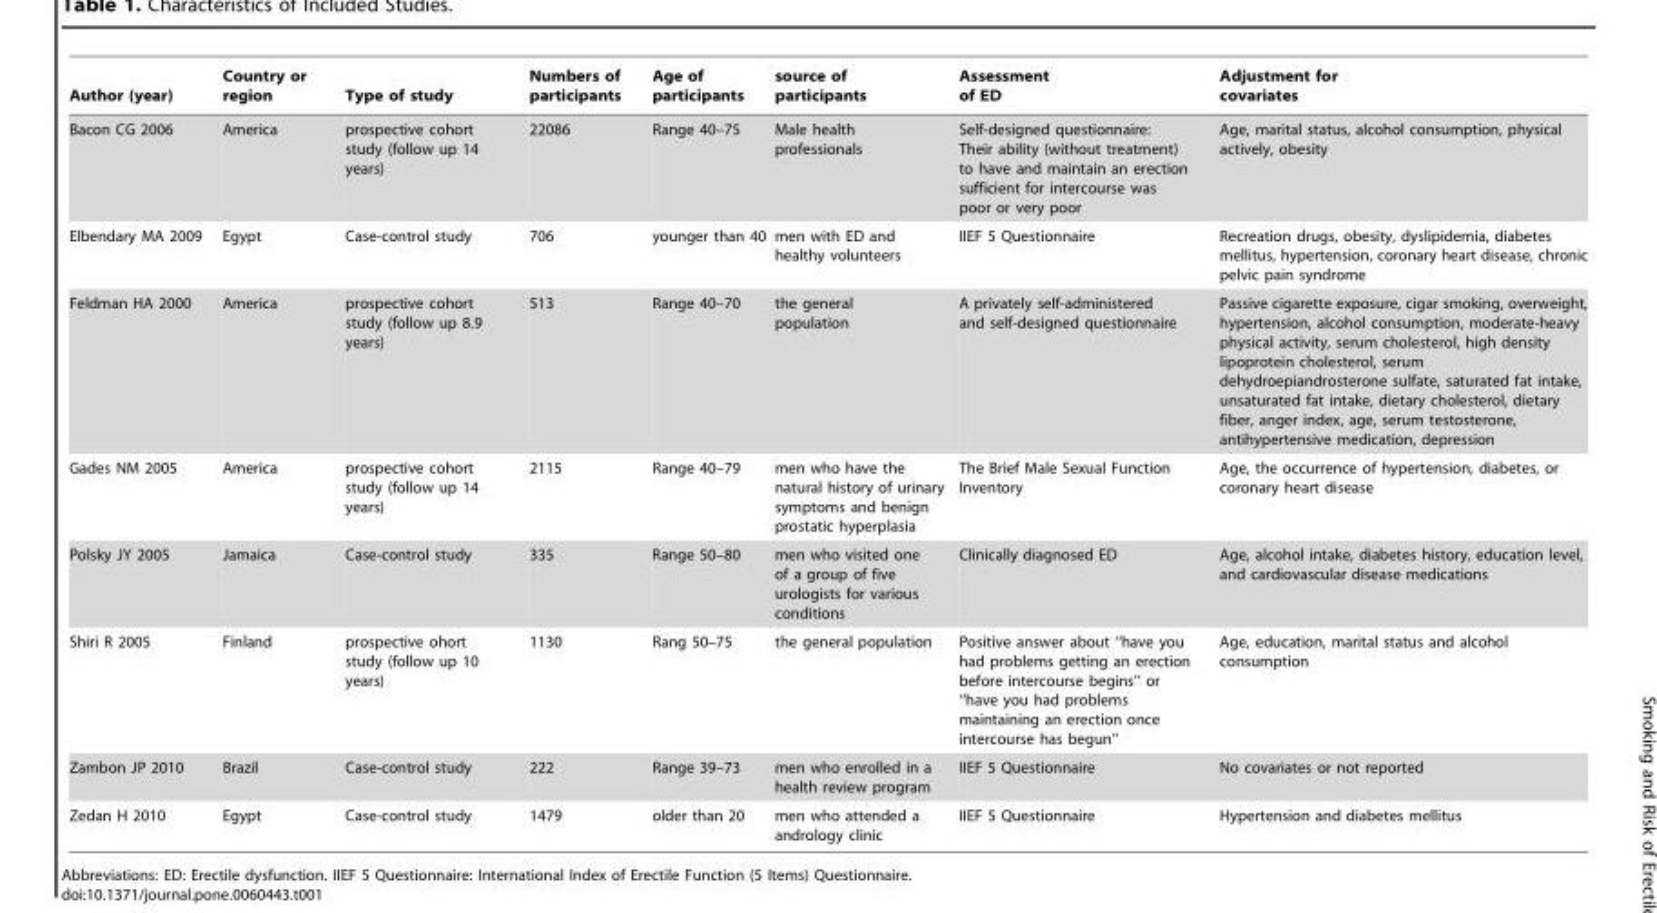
<table><thead><tr><td>Author (year)</td><td>Country or region</td><td>Type of study</td><td>Numbers of participants</td><td>Age of participants</td><td>source of participants</td><td>Assessment of ED</td><td>Adjustment for covariates</td></tr></thead><tbody><tr><td>Bacon CG 2006</td><td>America</td><td>prospective cohort study (follow up 14 years)</td><td>22086</td><td>Range 40–75</td><td>Male health professionals</td><td>Self-designed questionnaire: Their ability (without treatment) to have and maintain an erection sufficient for intercourse was poor or very poor</td><td>Age, marital status, alcohol consumption, physical actively, obesity</td></tr><tr><td>Elbendary MA 2009</td><td>Egypt</td><td>Case-control study</td><td>706</td><td>younger than 40</td><td>men with ED and healthy volunteers</td><td>IIEF 5 Questionnaire</td><td>Recreation drugs, obesity, dyslipidemia, diabetes mellitus, hypertension, coronary heart disease, chronic pelvic pain syndrome</td></tr><tr><td>Feldman HA 2000</td><td>America</td><td>prospective cohort study (follow up 8.9 years)</td><td>513</td><td>Range 40–70</td><td>the general population</td><td>A privately self-administered and self-designed questionnaire</td><td>Passive cigarette exposure, cigar smoking, overweight, hypertension, alcohol consumption, moderate-heavy physical activity, serum cholesterol, high density lipoprotein cholesterol, serum dehydroepiandrosterone sulfate, saturated fat intake, unsaturated fat intake, dietary cholesterol, dietary fiber, anger index, age, serum testosterone, antihypertensive medication, depression</td></tr><tr><td>Gades NM 2005</td><td>America</td><td>prospective cohort study (follow up 14 years)</td><td>2115</td><td>Range 40–79</td><td>men who have the natural history of urinary symptoms and benign prostatic hyperplasia</td><td>The Brief Male Sexual Function Inventory</td><td>Age, the occurrence of hypertension, diabetes, or coronary heart disease</td></tr><tr><td>Polsky JY 2005</td><td>Jamaica</td><td>Case-control study</td><td>335</td><td>Range 50–80</td><td>men who visited one of a group of five urologists for various conditions</td><td>Clinically diagnosed ED</td><td>Age, alcohol intake, diabetes history, education level, and cardiovascular disease medications</td></tr><tr><td>Shiri R 2005</td><td>Finland</td><td>prospective ohort study (follow up 10 years)</td><td>1130</td><td>Rang 50–75</td><td>the general population</td><td>Positive answer about ‘‘have you had problems getting an erection before intercourse begins’’ or ‘‘have you had problems maintaining an erection once intercourse has begun’’</td><td>Age, education, marital status and alcohol consumption</td></tr><tr><td>Zambon JP 2010</td><td>Brazil</td><td>Case-control study</td><td>222</td><td>Range 39–73</td><td>men who enrolled in a health review program</td><td>IIEF 5 Questionnaire</td><td>No covariates or not reported</td></tr><tr><td>Zedan H 2010</td><td>Egypt</td><td>Case-control study</td><td>1479</td><td>older than 20</td><td>men who attended a andrology clinic</td><td>IIEF 5 Questionnaire</td><td>Hypertension and diabetes mellitus</td></tr></tbody></table>